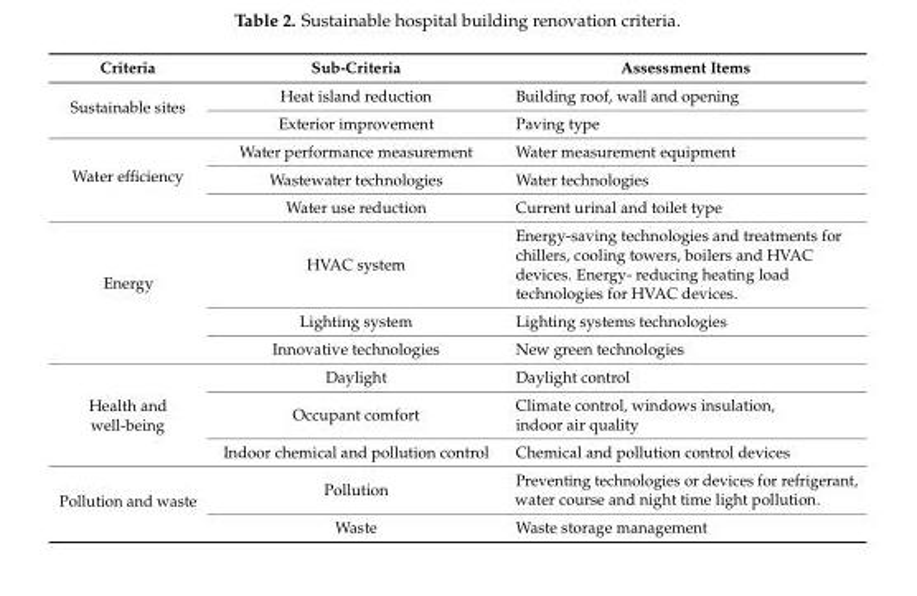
<table><thead><tr><td>Criteria</td><td>Sub-Criteria</td><td>Assessment Items</td></tr></thead><tbody><tr><td rowspan="2">Sustainable sites</td><td>Heat island reduction</td><td>Building roof, wall and opening</td></tr><tr><td>Exterior improvement</td><td>Paving type</td></tr><tr><td rowspan="3">Water efficiency</td><td>Water performance measurement</td><td>Water measurement equipment</td></tr><tr><td>Wastewater technologies</td><td>Water technologies</td></tr><tr><td>Water use reduction</td><td>Current urinal and toilet type</td></tr><tr><td rowspan="3">Energy</td><td>HVAC system</td><td>Energy-saving technologies and treatments for chillers, cooling towers, boilers and HVAC devices. Energy- reducing heating load technologies for HVAC devices.</td></tr><tr><td>Lighting system</td><td>Lighting systems technologies</td></tr><tr><td>Innovative technologies</td><td>New green technologies</td></tr><tr><td rowspan="3">Health and well-being</td><td>Daylight</td><td>Daylight control</td></tr><tr><td>Occupant comfort</td><td>Climate control, windows insulation, indoor air quality</td></tr><tr><td>Indoor chemical and pollution control</td><td>Chemical and pollution control devices</td></tr><tr><td rowspan="2">Pollution and waste</td><td>Pollution</td><td>Preventing technologies or devices for refrigerant, water course and night time light pollution.</td></tr><tr><td>Waste</td><td>Waste storage management</td></tr></tbody></table>